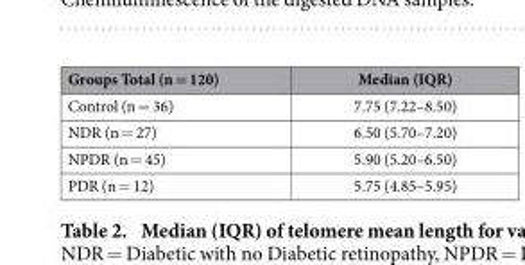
<table><thead><tr><td>Groups Total (n = 120)</td><td>Median (IQR)</td></tr></thead><tbody><tr><td>Control (n = 36)</td><td>7.75 (7.22–8.50)</td></tr><tr><td>NDR (n = 27)</td><td>6.50 (5.70–7.20)</td></tr><tr><td>NPDR (n = 45)</td><td>5.90 (5.20–6.50)</td></tr><tr><td>PDR (n = 12)</td><td>5.75 (4.85–5.95)</td></tr></tbody></table>